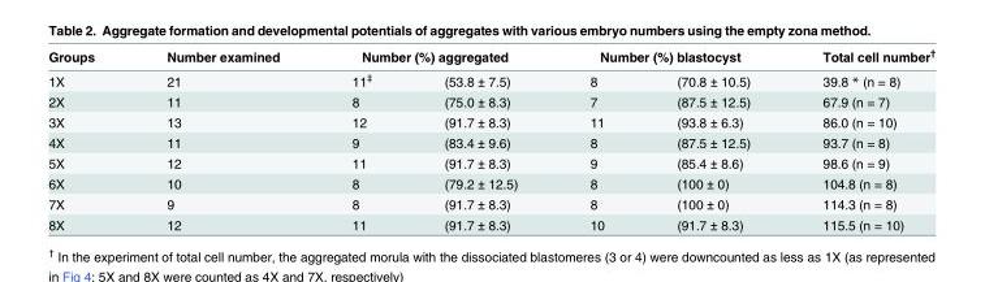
<table><thead><tr><td rowspan="2">Groups 1X</td><td rowspan="2">Number examined 21</td><td colspan="2">Number (%) aggregated</td><td colspan="2">Number (%) blastocyst</td><td rowspan="2">Total cell number<sup>†</sup> 39.8 * (n = 8)</td></tr><tr><td>11<sup>‡</sup></td><td>(53.8 ± 7.5)</td><td>8</td><td>(70.8 ± 10.5)</td></tr></thead><tbody><tr><td>2X</td><td>11</td><td>8</td><td>(75.0 ± 8.3)</td><td>7</td><td>(87.5 ± 12.5)</td><td>67.9 (n = 7)</td></tr><tr><td>3X</td><td>13</td><td>12</td><td>(91.7 ± 8.3)</td><td>11</td><td>(93.8 ± 6.3)</td><td>86.0 (n = 10)</td></tr><tr><td>4X</td><td>11</td><td>9</td><td>(83.4 ± 9.6)</td><td>8</td><td>(87.5 ± 12.5)</td><td>93.7 (n = 8)</td></tr><tr><td>5X</td><td>12</td><td>11</td><td>(91.7 ± 8.3)</td><td>9</td><td>(85.4 ± 8.6)</td><td>98.6 (n = 9)</td></tr><tr><td>6X</td><td>10</td><td>8</td><td>(79.2 ± 12.5)</td><td>8</td><td>(100 ± 0)</td><td>104.8 (n = 8)</td></tr><tr><td>7X</td><td>9</td><td>8</td><td>(91.7 ± 8.3)</td><td>8</td><td>(100 ± 0)</td><td>114.3 (n = 8)</td></tr><tr><td>8X</td><td>12</td><td>11</td><td>(91.7 ± 8.3)</td><td>10</td><td>(91.7 ± 8.3)</td><td>115.5 (n = 10)</td></tr></tbody></table>